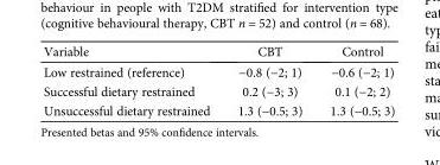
<table><thead><tr><td>Variable</td><td>CBT</td><td>Control</td></tr></thead><tbody><tr><td>Low restrained (reference)</td><td>−0.8 (−2; 1)</td><td>−0.6 (−2; 1)</td></tr><tr><td>Successful dietary restrained</td><td>0.2 (−3; 3)</td><td>0.1 (−2; 2)</td></tr><tr><td>Unsuccessful dietary restrained</td><td>1.3 (−0.5; 3)</td><td>1.3 (−0.5; 3)</td></tr></tbody></table>